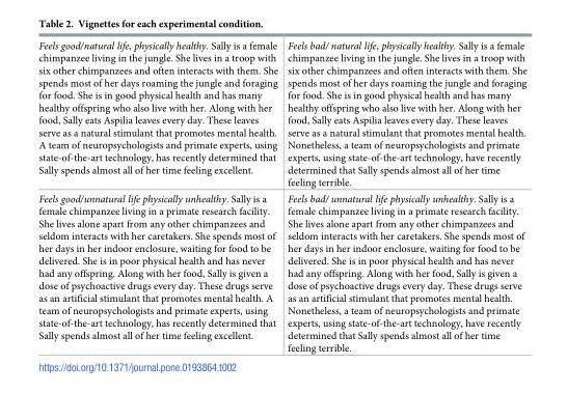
<table><tbody><tr><td>Feels good/natural life, physically healthy. Sally is a female chimpanzee living in the jungle. She lives in a troop with six other chimpanzees and often interacts with them. She spends most of her days roaming the jungle and foraging for food. She is in good physical health and has many healthy offspring who also live with her. Along with her food, Sally eats Aspilia leaves every day. These leaves serve as a natural stimulant that promotes mental health. A team of neuropsychologists and primate experts, using state-of-the-art technology, has recently determined that Sally spends almost all of her time feeling excellent.</td><td>Feels bad/ natural life, physically healthy. Sally is a female chimpanzee living in the jungle. She lives in a troop with six other chimpanzees and often interacts with them. She spends most of her days roaming the jungle and foraging for food. She is in good physical health and has many healthy offspring who also live with her. Along with her food, Sally eats Aspilia leaves every day. These leaves serve as a natural stimulant that promotes mental health. Nonetheless, a team of neuropsychologists and primate experts, using state-of-the-art technology, have recently determined that Sally spends almost all of her time feeling terrible.</td></tr><tr><td>Feels good/unnatural life physically unhealthy. Sally is a female chimpanzee living in a primate research facility. She lives alone apart from any other chimpanzees and seldom interacts with her caretakers. She spends most of her days in her indoor enclosure, waiting for food to be delivered. She is in poor physical health and has never had any offspring. Along with her food, Sally is given a dose of psychoactive drugs every day. These drugs serve as an artificial stimulant that promotes mental health. A team of neuropsychologists and primate experts, using state-of-the-art technology, has recently determined that Sally spends almost all of her time feeling excellent.</td><td>Feels bad/ unnatural life physically unhealthy. Sally is a female chimpanzee living in a primate research facility. She lives alone apart from any other chimpanzees and seldom interacts with her caretakers. She spends most of her days in her indoor enclosure, waiting for food to be delivered. She is in poor physical health and has never had any offspring. Along with her food, Sally is given a dose of psychoactive drugs every day. These drugs serve as an artificial stimulant that promotes mental health. Nonetheless, a team of neuropsychologists and primate experts, using state-of-the-art technology, have recently determined that Sally spends almost all of her time feeling terrible.</td></tr></tbody></table>